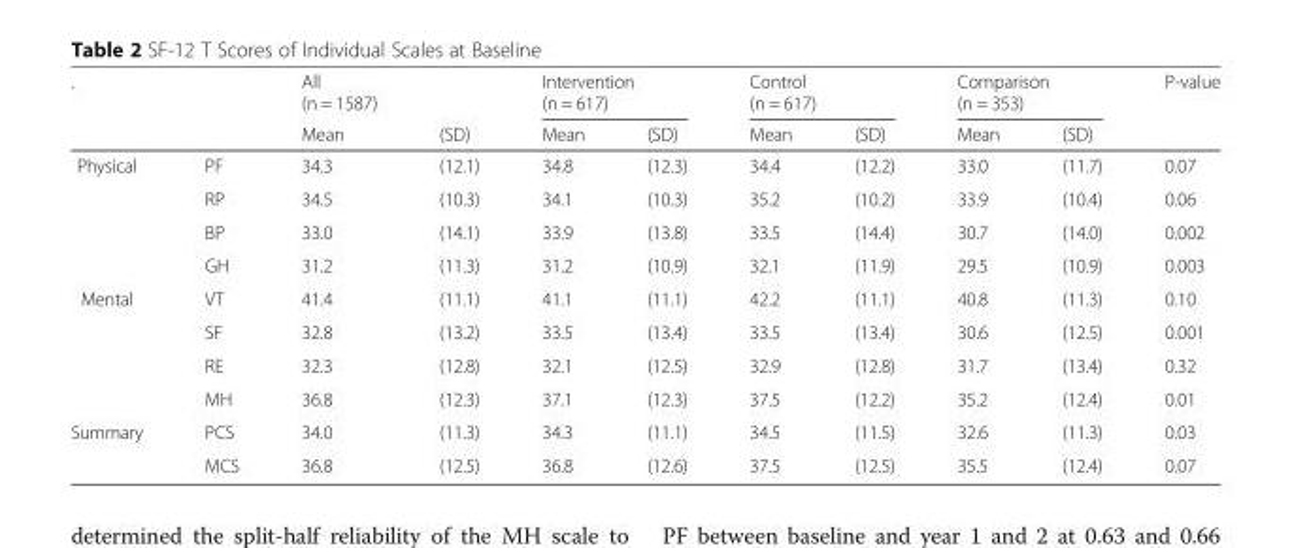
<table><thead><tr><td rowspan="2">.</td><td rowspan="2"></td><td rowspan="2">All (n = 1587) Mean</td><td rowspan="2">(SD)</td><td colspan="2">Intervention (n = 617)</td><td colspan="2">Control (n = 617)</td><td colspan="2">Comparison (n = 353)</td><td rowspan="2">P-value</td></tr><tr><td>Mean</td><td>(SD)</td><td>Mean</td><td>(SD)</td><td>Mean</td><td>(SD)</td></tr></thead><tbody><tr><td rowspan="4">Physical</td><td>PF</td><td>34.3</td><td>(12.1)</td><td>34.8</td><td>(12.3)</td><td>34.4</td><td>(12.2)</td><td>33.0</td><td>(11.7)</td><td>0.07</td></tr><tr><td>RP</td><td>34.5</td><td>(10.3)</td><td>34.1</td><td>(10.3)</td><td>35.2</td><td>(10.2)</td><td>33.9</td><td>(10.4)</td><td>0.06</td></tr><tr><td>BP</td><td>33.0</td><td>(14.1)</td><td>33.9</td><td>(13.8)</td><td>33.5</td><td>(14.4)</td><td>30.7</td><td>(14.0)</td><td>0.002</td></tr><tr><td>GH</td><td>31.2</td><td>(11.3)</td><td>31.2</td><td>(10.9)</td><td>32.1</td><td>(11.9)</td><td>29.5</td><td>(10.9)</td><td>0.003</td></tr><tr><td rowspan="4">Mental</td><td>VT</td><td>41.4</td><td>(11.1)</td><td>41.1</td><td>(11.1)</td><td>42.2</td><td>(11.1)</td><td>40.8</td><td>(11.3)</td><td>0.10</td></tr><tr><td>SF</td><td>32.8</td><td>(13.2)</td><td>33.5</td><td>(13.4)</td><td>33.5</td><td>(13.4)</td><td>30.6</td><td>(12.5)</td><td>0.001</td></tr><tr><td>RE</td><td>32.3</td><td>(12.8)</td><td>32.1</td><td>(12.5)</td><td>32.9</td><td>(12.8)</td><td>31.7</td><td>(13.4)</td><td>0.32</td></tr><tr><td>MH</td><td>36.8</td><td>(12.3)</td><td>37.1</td><td>(12.3)</td><td>37.5</td><td>(12.2)</td><td>35.2</td><td>(12.4)</td><td>0.01</td></tr><tr><td rowspan="2">Summary</td><td>PCS</td><td>34.0</td><td>(11.3)</td><td>34.3</td><td>(11.1)</td><td>34.5</td><td>(11.5)</td><td>32.6</td><td>(11.3)</td><td>0.03</td></tr><tr><td>MCS</td><td>36.8</td><td>(12.5)</td><td>36.8</td><td>(12.6)</td><td>37.5</td><td>(12.5)</td><td>35.5</td><td>(12.4)</td><td>0.07</td></tr></tbody></table>